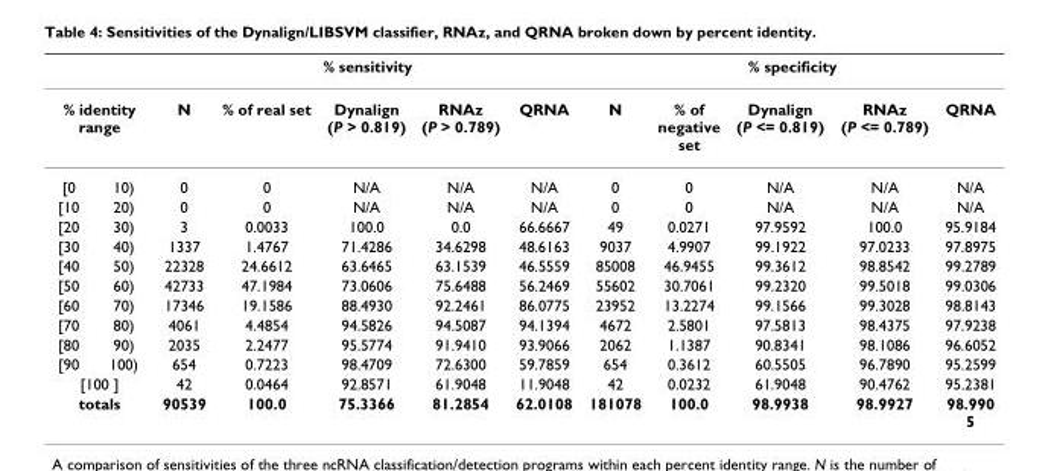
<table><thead><tr><td></td><td></td><td colspan="5">% sensitivity</td><td colspan="5">% specificity</td></tr><tr><td colspan="2">% identity range</td><td>N</td><td>% of real set</td><td>Dynalign (P &gt; 0.819)</td><td>RNAz (P &gt; 0.789)</td><td>QRNA</td><td>N</td><td>% of negative set</td><td>Dynalign (P &lt;= 0.819)</td><td>RNAz (P &lt;= 0.789)</td><td>QRNA</td></tr></thead><tbody><tr><td>[0</td><td>10)</td><td>0</td><td>0</td><td>N/A</td><td>N/A</td><td>N/A</td><td>0</td><td>0</td><td>N/A</td><td>N/A</td><td>N/A</td></tr><tr><td>[10</td><td>20)</td><td>0</td><td>0</td><td>N/A</td><td>N/A</td><td>N/A</td><td>0</td><td>0</td><td>N/A</td><td>N/A</td><td>N/A</td></tr><tr><td>[20</td><td>30)</td><td>3</td><td>0.0033</td><td>100.0</td><td>0.0</td><td>66.6667</td><td>49</td><td>0.0271</td><td>97.9592</td><td>100.0</td><td>95.9184</td></tr><tr><td>[30</td><td>40)</td><td>1337</td><td>1.4767</td><td>71.4286</td><td>34.6298</td><td>48.6163</td><td>9037</td><td>4.9907</td><td>99.1922</td><td>97.0233</td><td>97.8975</td></tr><tr><td>[40</td><td>50)</td><td>22328</td><td>24.6612</td><td>63.6465</td><td>63.1539</td><td>46.5559</td><td>85008</td><td>46.9455</td><td>99.3612</td><td>98.8542</td><td>99.2789</td></tr><tr><td>[50</td><td>60)</td><td>42733</td><td>47.1984</td><td>73.0606</td><td>75.6488</td><td>56.2469</td><td>55602</td><td>30.7061</td><td>99.2320</td><td>99.5018</td><td>99.0306</td></tr><tr><td>[60</td><td>70)</td><td>17346</td><td>19.1586</td><td>88.4930</td><td>92.2461</td><td>86.0775</td><td>23952</td><td>13.2274</td><td>99.1566</td><td>99.3028</td><td>98.8143</td></tr><tr><td>[70</td><td>80)</td><td>4061</td><td>4.4854</td><td>94.5826</td><td>94.5087</td><td>94.1394</td><td>4672</td><td>2.5801</td><td>97.5813</td><td>98.4375</td><td>97.9238</td></tr><tr><td>[80</td><td>90)</td><td>2035</td><td>2.2477</td><td>95.5774</td><td>91.9410</td><td>93.9066</td><td>2062</td><td>1.1387</td><td>90.8341</td><td>98.1086</td><td>96.6052</td></tr><tr><td>[90</td><td>100)</td><td>654</td><td>0.7223</td><td>98.4709</td><td>72.6300</td><td>59.7859</td><td>654</td><td>0.3612</td><td>60.5505</td><td>96.7890</td><td>95.2599</td></tr><tr><td colspan="2">[100 ]</td><td>42</td><td>0.0464</td><td>92.8571</td><td>61.9048</td><td>11.9048</td><td>42</td><td>0.0232</td><td>61.9048</td><td>90.4762</td><td>95.2381</td></tr><tr><td colspan="2">totals</td><td>90539</td><td>100.0</td><td>75.3366</td><td>81.2854</td><td>62.0108</td><td>181078</td><td>100.0</td><td>98.9938</td><td>98.9927</td><td>98.990</td></tr></tbody></table>